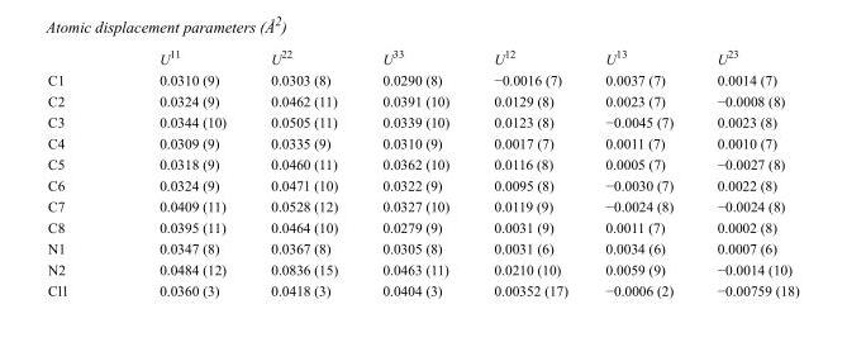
<table><thead><tr><td></td><td>U<sup>11</sup></td><td>U<sup>22</sup></td><td>U<sup>33</sup></td><td>U<sup>12</sup></td><td>U<sup>13</sup></td><td>U<sup>23</sup></td></tr></thead><tbody><tr><td>C1</td><td>0.0310 (9)</td><td>0.0303 (8)</td><td>0.0290 (8)</td><td>−0.0016 (7)</td><td>0.0037 (7)</td><td>0.0014 (7)</td></tr><tr><td>C2</td><td>0.0324 (9)</td><td>0.0462 (11)</td><td>0.0391 (10)</td><td>0.0129 (8)</td><td>0.0023 (7)</td><td>−0.0008 (8)</td></tr><tr><td>C3</td><td>0.0344 (10)</td><td>0.0505 (11)</td><td>0.0339 (10)</td><td>0.0123 (8)</td><td>−0.0045 (7)</td><td>0.0023 (8)</td></tr><tr><td>C4</td><td>0.0309 (9)</td><td>0.0335 (9)</td><td>0.0310 (9)</td><td>0.0017 (7)</td><td>0.0011 (7)</td><td>0.0010 (7)</td></tr><tr><td>C5</td><td>0.0318 (9)</td><td>0.0460 (11)</td><td>0.0362 (10)</td><td>0.0116 (8)</td><td>0.0005 (7)</td><td>−0.0027 (8)</td></tr><tr><td>C6</td><td>0.0324 (9)</td><td>0.0471 (10)</td><td>0.0322 (9)</td><td>0.0095 (8)</td><td>−0.0030 (7)</td><td>0.0022 (8)</td></tr><tr><td>C7</td><td>0.0409 (11)</td><td>0.0528 (12)</td><td>0.0327 (10)</td><td>0.0119 (9)</td><td>−0.0024 (8)</td><td>−0.0024 (8)</td></tr><tr><td>C8</td><td>0.0395 (11)</td><td>0.0464 (10)</td><td>0.0279 (9)</td><td>0.0031 (9)</td><td>0.0011 (7)</td><td>0.0002 (8)</td></tr><tr><td>N1</td><td>0.0347 (8)</td><td>0.0367 (8)</td><td>0.0305 (8)</td><td>0.0031 (6)</td><td>0.0034 (6)</td><td>0.0007 (6)</td></tr><tr><td>N2</td><td>0.0484 (12)</td><td>0.0836 (15)</td><td>0.0463 (11)</td><td>0.0210 (10)</td><td>0.0059 (9)</td><td>−0.0014 (10)</td></tr><tr><td>Cl1</td><td>0.0360 (3)</td><td>0.0418 (3)</td><td>0.0404 (3)</td><td>0.00352 (17)</td><td>−0.0006 (2)</td><td>−0.00759 (18)</td></tr></tbody></table>